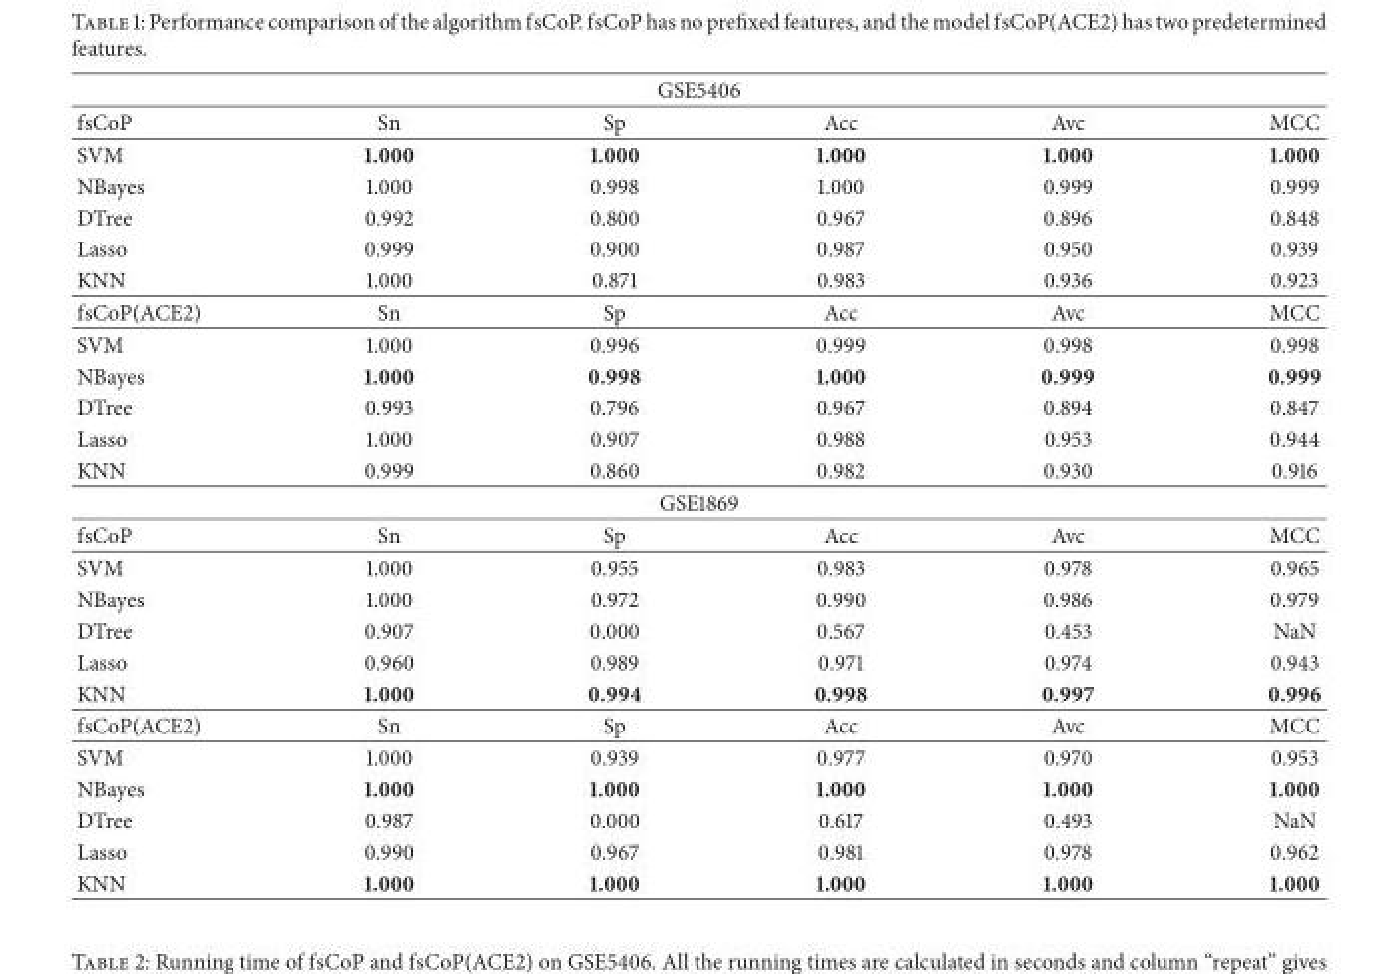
<table><tbody><tr><td colspan="6">GSE5406</td></tr><tr><td>fsCoP</td><td>Sn</td><td>Sp</td><td>Acc</td><td>Avc</td><td>MCC</td></tr><tr><td>SVM</td><td>1.000</td><td>1.000</td><td>1.000</td><td>1.000</td><td>1.000</td></tr><tr><td>NBayes</td><td>1.000</td><td>0.998</td><td>1.000</td><td>0.999</td><td>0.999</td></tr><tr><td>DTree</td><td>0.992</td><td>0.800</td><td>0.967</td><td>0.896</td><td>0.848</td></tr><tr><td>Lasso</td><td>0.999</td><td>0.900</td><td>0.987</td><td>0.950</td><td>0.939</td></tr><tr><td>KNN</td><td>1.000</td><td>0.871</td><td>0.983</td><td>0.936</td><td>0.923</td></tr><tr><td>fsCoP(ACE2)</td><td>Sn</td><td>Sp</td><td>Acc</td><td>Avc</td><td>MCC</td></tr><tr><td>SVM</td><td>1.000</td><td>0.996</td><td>0.999</td><td>0.998</td><td>0.998</td></tr><tr><td>NBayes</td><td>1.000</td><td>0.998</td><td>1.000</td><td>0.999</td><td>0.999</td></tr><tr><td>DTree</td><td>0.993</td><td>0.796</td><td>0.967</td><td>0.894</td><td>0.847</td></tr><tr><td>Lasso</td><td>1.000</td><td>0.907</td><td>0.988</td><td>0.953</td><td>0.944</td></tr><tr><td>KNN</td><td>0.999</td><td>0.860</td><td>0.982</td><td>0.930</td><td>0.916</td></tr><tr><td colspan="6">GSE1869</td></tr><tr><td>fsCoP</td><td>Sn</td><td>Sp</td><td>Acc</td><td>Avc</td><td>MCC</td></tr><tr><td>SVM</td><td>1.000</td><td>0.955</td><td>0.983</td><td>0.978</td><td>0.965</td></tr><tr><td>NBayes</td><td>1.000</td><td>0.972</td><td>0.990</td><td>0.986</td><td>0.979</td></tr><tr><td>DTree</td><td>0.907</td><td>0.000</td><td>0.567</td><td>0.453</td><td>NaN</td></tr><tr><td>Lasso</td><td>0.960</td><td>0.989</td><td>0.971</td><td>0.974</td><td>0.943</td></tr><tr><td>KNN</td><td>1.000</td><td>0.994</td><td>0.998</td><td>0.997</td><td>0.996</td></tr><tr><td>fsCoP(ACE2)</td><td>Sn</td><td>Sp</td><td>Acc</td><td>Avc</td><td>MCC</td></tr><tr><td>SVM</td><td>1.000</td><td>0.939</td><td>0.977</td><td>0.970</td><td>0.953</td></tr><tr><td>NBayes</td><td>1.000</td><td>1.000</td><td>1.000</td><td>1.000</td><td>1.000</td></tr><tr><td>DTree</td><td>0.987</td><td>0.000</td><td>0.617</td><td>0.493</td><td>NaN</td></tr><tr><td>Lasso</td><td>0.990</td><td>0.967</td><td>0.981</td><td>0.978</td><td>0.962</td></tr><tr><td>KNN</td><td>1.000</td><td>1.000</td><td>1.000</td><td>1.000</td><td>1.000</td></tr></tbody></table>